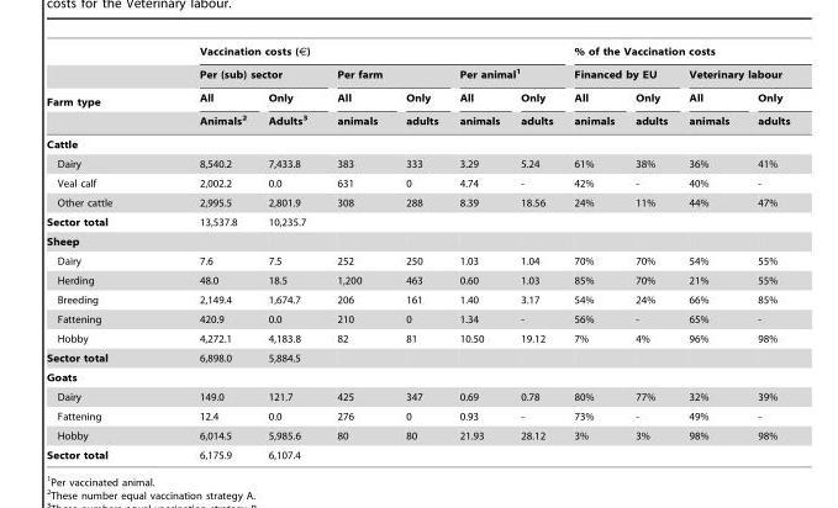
<table><thead><tr><td rowspan="4">Farm type</td><td colspan="6">Vaccination costs (€)</td><td colspan="4">% of the Vaccination costs</td></tr><tr><td colspan="2">Per (sub) sector</td><td colspan="2">Per farm</td><td colspan="2">Per animal<sup>1</sup></td><td colspan="2">Financed by EU</td><td colspan="2">Veterinary labour</td></tr><tr><td rowspan="2">All Animals<sup>2</sup></td><td rowspan="2">Only Adults<sup>3</sup></td><td rowspan="2">All animals</td><td rowspan="2">Only adults</td><td rowspan="2">All animals</td><td rowspan="2">Only adults</td><td rowspan="2">All animals</td><td rowspan="2">Only adults</td><td rowspan="2">All animals</td><td rowspan="2">Only adults</td></tr><tr></tr></thead><tbody><tr><td colspan="11">Cattle</td></tr><tr><td>Dairy</td><td>8,540.2</td><td>7,433.8</td><td>383</td><td>333</td><td>3.29</td><td>5.24</td><td>61%</td><td>38%</td><td>36%</td><td>41%</td></tr><tr><td>Veal calf</td><td>2,002.2</td><td>0.0</td><td>631</td><td>0</td><td>4.74</td><td>-</td><td>42%</td><td>-</td><td>40%</td><td>-</td></tr><tr><td>Other cattle</td><td>2,995.5</td><td>2,801.9</td><td>308</td><td>288</td><td>8.39</td><td>18.56</td><td>24%</td><td>11%</td><td>44%</td><td>47%</td></tr><tr><td>Sector total</td><td>13,537.8</td><td>10,235.7</td><td></td><td></td><td></td><td></td><td></td><td></td><td></td><td></td></tr><tr><td colspan="11">Sheep</td></tr><tr><td>Dairy</td><td>7.6</td><td>7.5</td><td>252</td><td>250</td><td>1.03</td><td>1.04</td><td>70%</td><td>70%</td><td>54%</td><td>55%</td></tr><tr><td>Herding</td><td>48.0</td><td>18.5</td><td>1,200</td><td>463</td><td>0.60</td><td>1.03</td><td>85%</td><td>70%</td><td>21%</td><td>55%</td></tr><tr><td>Breeding</td><td>2,149.4</td><td>1,674.7</td><td>206</td><td>161</td><td>1.40</td><td>3.17</td><td>54%</td><td>24%</td><td>66%</td><td>85%</td></tr><tr><td>Fattening</td><td>420.9</td><td>0.0</td><td>210</td><td>0</td><td>1.34</td><td>-</td><td>56%</td><td>-</td><td>65%</td><td>-</td></tr><tr><td>Hobby</td><td>4,272.1</td><td>4,183.8</td><td>82</td><td>81</td><td>10.50</td><td>19.12</td><td>7%</td><td>4%</td><td>96%</td><td>98%</td></tr><tr><td>Sector total</td><td>6,898.0</td><td>5,884.5</td><td></td><td></td><td></td><td></td><td></td><td></td><td></td><td></td></tr><tr><td colspan="11">Goats</td></tr><tr><td>Dairy</td><td>149.0</td><td>121.7</td><td>425</td><td>347</td><td>0.69</td><td>0.78</td><td>80%</td><td>77%</td><td>32%</td><td>39%</td></tr><tr><td>Fattening</td><td>12.4</td><td>0.0</td><td>276</td><td>0</td><td>0.93</td><td>-</td><td>73%</td><td>-</td><td>49%</td><td>-</td></tr><tr><td>Hobby</td><td>6,014.5</td><td>5,985.6</td><td>80</td><td>80</td><td>21.93</td><td>28.12</td><td>3%</td><td>3%</td><td>98%</td><td>98%</td></tr><tr><td>Sector total</td><td>6,175.9</td><td>6,107.4</td><td></td><td></td><td></td><td></td><td></td><td></td><td></td><td></td></tr></tbody></table>